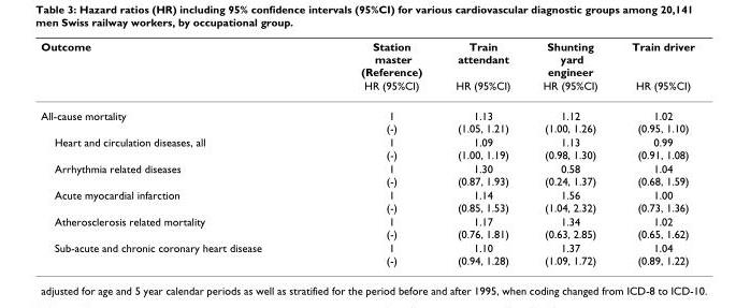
<table><thead><tr><td rowspan="2">Outcome</td><td rowspan="2">Station master (Reference) HR (95%CI)</td><td rowspan="2">Train attendant HR (95%CI)</td><td rowspan="2">Shunting yard engineer HR (95%CI)</td><td rowspan="2">Train driver HR (95%CI)</td></tr><tr></tr></thead><tbody><tr><td>All-cause mortality</td><td>1 (-)</td><td>1.13 (1.05, 1.21)</td><td>1.12 (1.00, 1.26)</td><td>1.02 (0.95, 1.10)</td></tr><tr><td>Heart and circulation diseases, all</td><td>1 (-)</td><td>1.09 (1.00, 1.19)</td><td>1.13 (0.98, 1.30)</td><td>0.99 (0.91, 1.08)</td></tr><tr><td>Arrhythmia related diseases</td><td>1 (-)</td><td>1.30 (0.87, 1.93)</td><td>0.58 (0.24, 1.37)</td><td>1.04 (0.68, 1.59)</td></tr><tr><td>Acute myocardial infarction</td><td>1 (-)</td><td>1.14 (0.85, 1.53)</td><td>1.56 (1.04, 2.32)</td><td>1.00 (0.73, 1.36)</td></tr><tr><td>Atherosclerosis related mortality</td><td>1 (-)</td><td>1.17 (0.76, 1.81)</td><td>1.34 (0.63, 2.85)</td><td>1.02 (0.65, 1.62)</td></tr><tr><td>Sub-acute and chronic coronary heart disease</td><td>1 (-)</td><td>1.10 (0.94, 1.28)</td><td>1.37 (1.09, 1.72)</td><td>1.04 (0.89, 1.22)</td></tr></tbody></table>